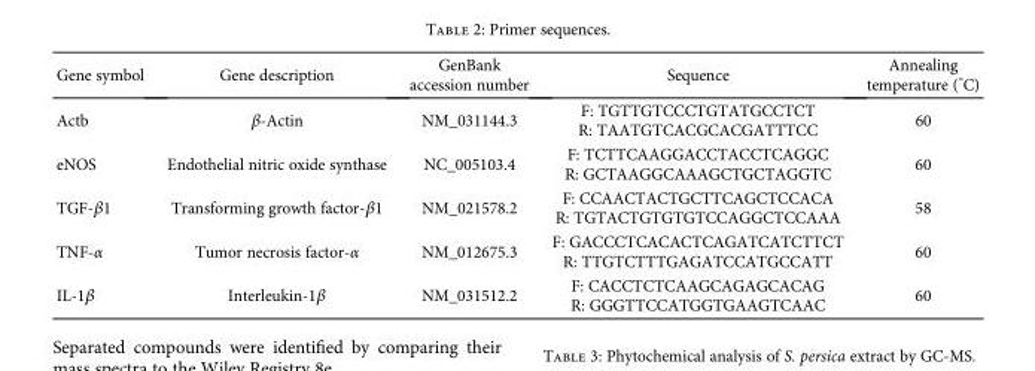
<table><thead><tr><td>Gene symbol</td><td>Gene description</td><td>GenBank accession number</td><td>Sequence</td><td>Annealing temperature (°C)</td></tr></thead><tbody><tr><td>Actb</td><td>β-Actin</td><td>NM_031144.3</td><td>F: TGTTGTCCCTGTATGCCTCT R: TAATGTCACGCACGATTTCC</td><td>60</td></tr><tr><td>eNOS</td><td>Endothelial nitric oxide synthase</td><td>NC_005103.4</td><td>F: TCTTCAAGGACCTACCTCAGGC R: GCTAAGGCAAAGCTGCTAGGTC</td><td>60</td></tr><tr><td>TGF-β1</td><td>Transforming growth factor-β1</td><td>NM_021578.2</td><td>F: CCAACTACTGCTTCAGCTCCACA R: TGTACTGTGTGTCCAGGCTCCAAA</td><td>58</td></tr><tr><td>TNF-α</td><td>Tumor necrosis factor-α</td><td>NM_012675.3</td><td>F: GACCCTCACACTCAGATCATCTTCT R: TTGTCTTTGAGATCCATGCCATT</td><td>60</td></tr><tr><td>IL-1β</td><td>Interleukin-1β</td><td>NM_031512.2</td><td>F: CACCTCTCAAGCAGAGCACAG R: GGGTTCCATGGTGAAGTCAAC</td><td>60</td></tr></tbody></table>